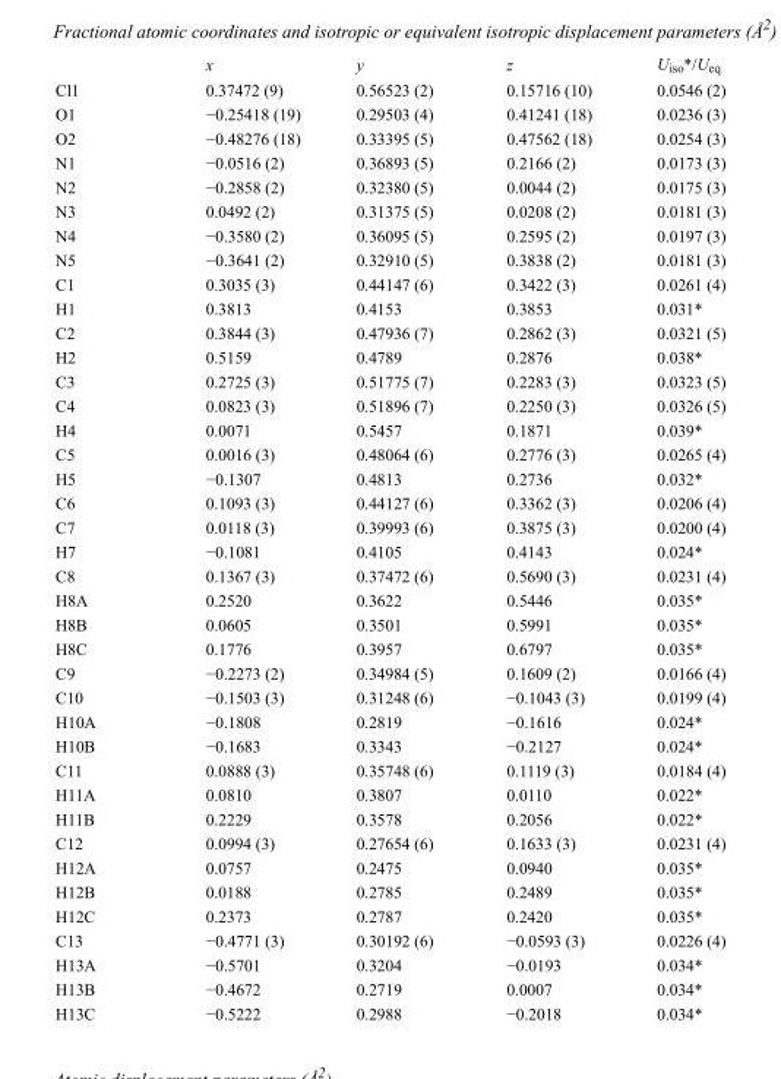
<table><thead><tr><td></td><td>x</td><td>y</td><td>z</td><td>U<sub>iso</sub>*/U<sub>eq</sub></td></tr></thead><tbody><tr><td>Cl1</td><td>0.37472 (9)</td><td>0.56523 (2)</td><td>0.15716 (10)</td><td>0.0546 (2)</td></tr><tr><td>O1</td><td>−0.25418 (19)</td><td>0.29503 (4)</td><td>0.41241 (18)</td><td>0.0236 (3)</td></tr><tr><td>O2</td><td>−0.48276 (18)</td><td>0.33395 (5)</td><td>0.47562 (18)</td><td>0.0254 (3)</td></tr><tr><td>N1</td><td>−0.0516 (2)</td><td>0.36893 (5)</td><td>0.2166 (2)</td><td>0.0173 (3)</td></tr><tr><td>N2</td><td>−0.2858 (2)</td><td>0.32380 (5)</td><td>0.0044 (2)</td><td>0.0175 (3)</td></tr><tr><td>N3</td><td>0.0492 (2)</td><td>0.31375 (5)</td><td>0.0208 (2)</td><td>0.0181 (3)</td></tr><tr><td>N4</td><td>−0.3580 (2)</td><td>0.36095 (5)</td><td>0.2595 (2)</td><td>0.0197 (3)</td></tr><tr><td>N5</td><td>−0.3641 (2)</td><td>0.32910 (5)</td><td>0.3838 (2)</td><td>0.0181 (3)</td></tr><tr><td>C1</td><td>0.3035 (3)</td><td>0.44147 (6)</td><td>0.3422 (3)</td><td>0.0261 (4)</td></tr><tr><td>H1</td><td>0.3813</td><td>0.4153</td><td>0.3853</td><td>0.031*</td></tr><tr><td>C2</td><td>0.3844 (3)</td><td>0.47936 (7)</td><td>0.2862 (3)</td><td>0.0321 (5)</td></tr><tr><td>H2</td><td>0.5159</td><td>0.4789</td><td>0.2876</td><td>0.038*</td></tr><tr><td>C3</td><td>0.2725 (3)</td><td>0.51775 (7)</td><td>0.2283 (3)</td><td>0.0323 (5)</td></tr><tr><td>C4</td><td>0.0823 (3)</td><td>0.51896 (7)</td><td>0.2250 (3)</td><td>0.0326 (5)</td></tr><tr><td>H4</td><td>0.0071</td><td>0.5457</td><td>0.1871</td><td>0.039*</td></tr><tr><td>C5</td><td>0.0016 (3)</td><td>0.48064 (6)</td><td>0.2776 (3)</td><td>0.0265 (4)</td></tr><tr><td>H5</td><td>−0.1307</td><td>0.4813</td><td>0.2736</td><td>0.032*</td></tr><tr><td>C6</td><td>0.1093 (3)</td><td>0.44127 (6)</td><td>0.3362 (3)</td><td>0.0206 (4)</td></tr><tr><td>C7</td><td>0.0118 (3)</td><td>0.39993 (6)</td><td>0.3875 (3)</td><td>0.0200 (4)</td></tr><tr><td>H7</td><td>−0.1081</td><td>0.4105</td><td>0.4143</td><td>0.024*</td></tr><tr><td>C8</td><td>0.1367 (3)</td><td>0.37472 (6)</td><td>0.5690 (3)</td><td>0.0231 (4)</td></tr><tr><td>H8A</td><td>0.2520</td><td>0.3622</td><td>0.5446</td><td>0.035*</td></tr><tr><td>H8B</td><td>0.0605</td><td>0.3501</td><td>0.5991</td><td>0.035*</td></tr><tr><td>H8C</td><td>0.1776</td><td>0.3957</td><td>0.6797</td><td>0.035*</td></tr><tr><td>C9</td><td>−0.2273 (2)</td><td>0.34984 (5)</td><td>0.1609 (2)</td><td>0.0166 (4)</td></tr><tr><td>C10</td><td>−0.1503 (3)</td><td>0.31248 (6)</td><td>−0.1043 (3)</td><td>0.0199 (4)</td></tr><tr><td>H10A</td><td>−0.1808</td><td>0.2819</td><td>−0.1616</td><td>0.024*</td></tr><tr><td>H10B</td><td>−0.1683</td><td>0.3343</td><td>−0.2127</td><td>0.024*</td></tr><tr><td>C11</td><td>0.0888 (3)</td><td>0.35748 (6)</td><td>0.1119 (3)</td><td>0.0184 (4)</td></tr><tr><td>H11A</td><td>0.0810</td><td>0.3807</td><td>0.0110</td><td>0.022*</td></tr><tr><td>H11B</td><td>0.2229</td><td>0.3578</td><td>0.2056</td><td>0.022*</td></tr><tr><td>C12</td><td>0.0994 (3)</td><td>0.27654 (6)</td><td>0.1633 (3)</td><td>0.0231 (4)</td></tr><tr><td>H12A</td><td>0.0757</td><td>0.2475</td><td>0.0940</td><td>0.035*</td></tr><tr><td>H12B</td><td>0.0188</td><td>0.2785</td><td>0.2489</td><td>0.035*</td></tr><tr><td>H12C</td><td>0.2373</td><td>0.2787</td><td>0.2420</td><td>0.035*</td></tr><tr><td>C13</td><td>−0.4771 (3)</td><td>0.30192 (6)</td><td>−0.0593 (3)</td><td>0.0226 (4)</td></tr><tr><td>H13A</td><td>−0.5701</td><td>0.3204</td><td>−0.0193</td><td>0.034*</td></tr><tr><td>H13B</td><td>−0.4672</td><td>0.2719</td><td>0.0007</td><td>0.034*</td></tr><tr><td>H13C</td><td>−0.5222</td><td>0.2988</td><td>−0.2018</td><td>0.034*</td></tr></tbody></table>